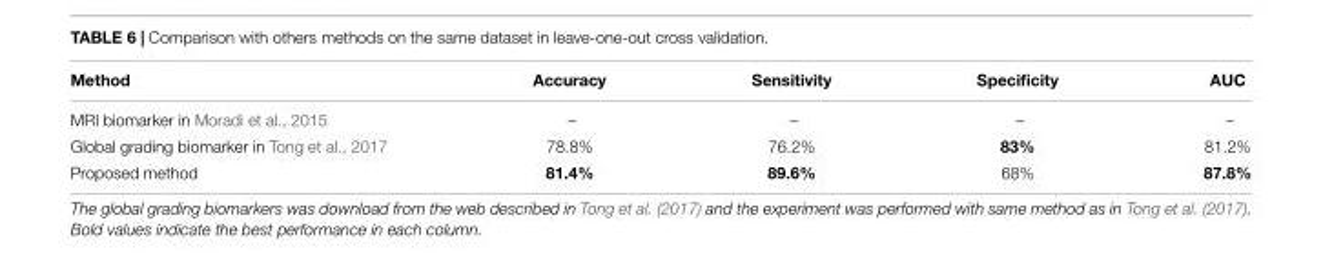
<table><thead><tr><td>Method</td><td>Accuracy</td><td>Sensitivity</td><td>Specificity</td><td>AUC</td></tr></thead><tbody><tr><td>MRI biomarker in Moradi et al., 2015</td><td>–</td><td>–</td><td>–</td><td>–</td></tr><tr><td>Global grading biomarker in Tong et al., 2017</td><td>78.8%</td><td>76.2%</td><td>83%</td><td>81.2%</td></tr><tr><td>Proposed method</td><td>81.4%</td><td>89.6%</td><td>68%</td><td>87.8%</td></tr></tbody></table>